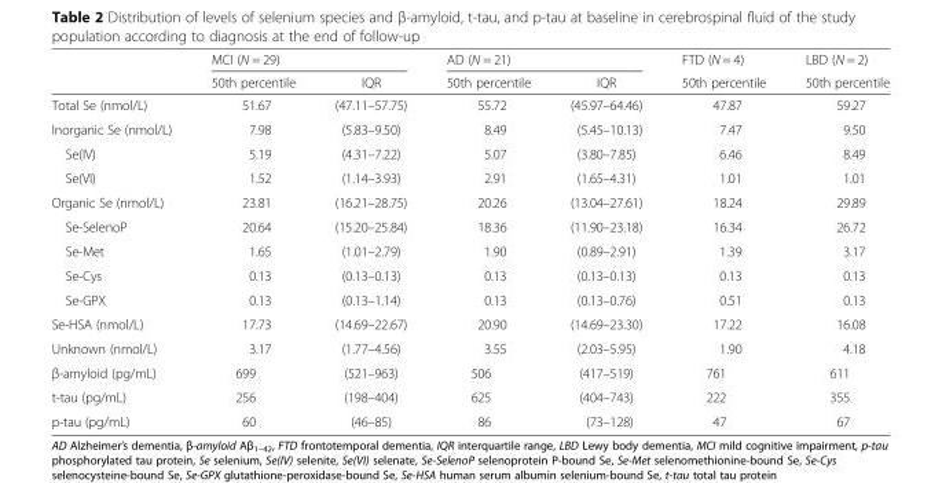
<table><thead><tr><td rowspan="2"></td><td colspan="2">MCI (N = 29)</td><td colspan="2">AD (N = 21)</td><td rowspan="2">FTD (N = 4) 50th percentile</td><td rowspan="2">LBD (N = 2) 50th percentile</td></tr><tr><td>50th percentile</td><td>IQR</td><td>50th percentile</td><td>IQR</td></tr></thead><tbody><tr><td>Total Se (nmol/L)</td><td>51.67</td><td>(47.11–57.75)</td><td>55.72</td><td>(45.97–64.46)</td><td>47.87</td><td>59.27</td></tr><tr><td>Inorganic Se (nmol/L)</td><td>7.98</td><td>(5.83–9.50)</td><td>8.49</td><td>(5.45–10.13)</td><td>7.47</td><td>9.50</td></tr><tr><td>Se(IV)</td><td>5.19</td><td>(4.31–7.22)</td><td>5.07</td><td>(3.80–7.85)</td><td>6.46</td><td>8.49</td></tr><tr><td>Se(VI)</td><td>1.52</td><td>(1.14–3.93)</td><td>2.91</td><td>(1.65–4.31)</td><td>1.01</td><td>1.01</td></tr><tr><td>Organic Se (nmol/L)</td><td>23.81</td><td>(16.21–28.75)</td><td>20.26</td><td>(13.04–27.61)</td><td>18.24</td><td>29.89</td></tr><tr><td>Se-SelenoP</td><td>20.64</td><td>(15.20–25.84)</td><td>18.36</td><td>(11.90–23.18)</td><td>16.34</td><td>26.72</td></tr><tr><td>Se-Met</td><td>1.65</td><td>(1.01–2.79)</td><td>1.90</td><td>(0.89–2.91)</td><td>1.39</td><td>3.17</td></tr><tr><td>Se-Cys</td><td>0.13</td><td>(0.13–0.13)</td><td>0.13</td><td>(0.13–0.13)</td><td>0.13</td><td>0.13</td></tr><tr><td>Se-GPX</td><td>0.13</td><td>(0.13–1.14)</td><td>0.13</td><td>(0.13–0.76)</td><td>0.51</td><td>0.13</td></tr><tr><td>Se-HSA (nmol/L)</td><td>17.73</td><td>(14.69–22.67)</td><td>20.90</td><td>(14.69–23.30)</td><td>17.22</td><td>16.08</td></tr><tr><td>Unknown (nmol/L)</td><td>3.17</td><td>(1.77–4.56)</td><td>3.55</td><td>(2.03–5.95)</td><td>1.90</td><td>4.18</td></tr><tr><td>β-amyloid (pg/mL)</td><td>699</td><td>(521–963)</td><td>506</td><td>(417–519)</td><td>761</td><td>611</td></tr><tr><td>t-tau (pg/mL)</td><td>256</td><td>(198–404)</td><td>625</td><td>(404–743)</td><td>222</td><td>355</td></tr><tr><td>p-tau (pg/mL)</td><td>60</td><td>(46–85)</td><td>86</td><td>(73–128)</td><td>47</td><td>67</td></tr></tbody></table>